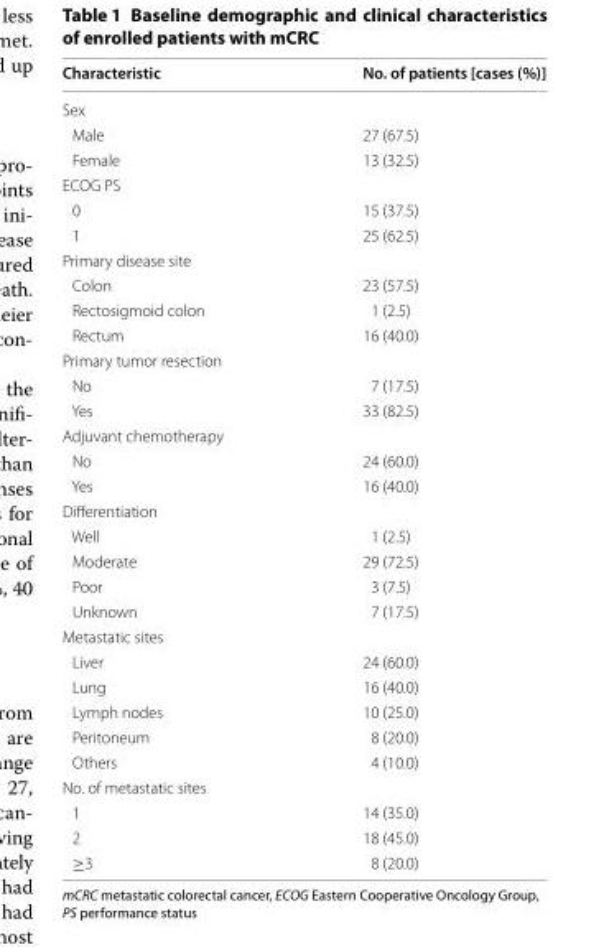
<table><thead><tr><td>Characteristic</td><td>No. of patients [cases (%)]</td></tr></thead><tbody><tr><td colspan="2">Sex</td></tr><tr><td>Male</td><td>27 (67.5)</td></tr><tr><td>Female</td><td>13 (32.5)</td></tr><tr><td colspan="2">ECOG PS</td></tr><tr><td>0</td><td>15 (37.5)</td></tr><tr><td>1</td><td>25 (62.5)</td></tr><tr><td colspan="2">Primary disease site</td></tr><tr><td>Colon</td><td>23 (57.5)</td></tr><tr><td>Rectosigmoid colon</td><td>1 (2.5)</td></tr><tr><td>Rectum</td><td>16 (40.0)</td></tr><tr><td colspan="2">Primary tumor resection</td></tr><tr><td>No</td><td>7 (17.5)</td></tr><tr><td>Yes</td><td>33 (82.5)</td></tr><tr><td colspan="2">Adjuvant chemotherapy</td></tr><tr><td>No</td><td>24 (60.0)</td></tr><tr><td>Yes</td><td>16 (40.0)</td></tr><tr><td colspan="2">Differentiation</td></tr><tr><td>Well</td><td>1 (2.5)</td></tr><tr><td>Moderate</td><td>29 (72.5)</td></tr><tr><td>Poor</td><td>3 (7.5)</td></tr><tr><td>Unknown</td><td>7 (17.5)</td></tr><tr><td colspan="2">Metastatic sites</td></tr><tr><td>Liver</td><td>24 (60.0)</td></tr><tr><td>Lung</td><td>16 (40.0)</td></tr><tr><td>Lymph nodes</td><td>10 (25.0)</td></tr><tr><td>Peritoneum</td><td>8 (20.0)</td></tr><tr><td>Others</td><td>4 (10.0)</td></tr><tr><td colspan="2">No. of metastatic sites</td></tr><tr><td>1</td><td>14 (35.0)</td></tr><tr><td>2</td><td>18 (45.0)</td></tr><tr><td>≥3</td><td>8 (20.0)</td></tr></tbody></table>